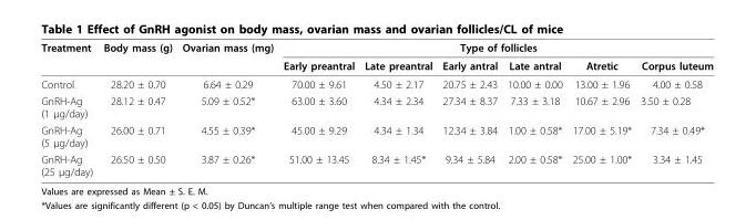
<table><thead><tr><td rowspan="2">Treatment</td><td rowspan="2">Body mass (g)</td><td rowspan="2">Ovarian mass (mg)</td><td colspan="6">Type of follicles</td></tr><tr><td>Early preantral</td><td>Late preantral</td><td>Early antral</td><td>Late antral</td><td>Atretic</td><td>Corpus luteum</td></tr></thead><tbody><tr><td>Control</td><td>28.20 ± 0.70</td><td>6.64 ± 0.29</td><td>70.00 ± 9.61</td><td>4.50 ± 2.17</td><td>20.75 ± 2.43</td><td>10.00 ± 0.00</td><td>13.00 ± 1.96</td><td>4.00 ± 0.58</td></tr><tr><td>GnRH-Ag (1 μg/day)</td><td>28.12 ± 0.47</td><td>5.09 ± 0.52*</td><td>63.00 ± 3.60</td><td>4.34 ± 2.34</td><td>27.34 ± 8.37</td><td>7.33 ± 3.18</td><td>10.67 ± 2.96</td><td>3.50 ± 0.28</td></tr><tr><td>GnRH-Ag (5 μg/day)</td><td>26.00 ± 0.71</td><td>4.55 ± 0.39*</td><td>45.00 ± 9.29</td><td>4.34 ± 1.34</td><td>12.34 ± 3.84</td><td>1.00 ± 0.58*</td><td>17.00 ± 5.19*</td><td>7.34 ± 0.49*</td></tr><tr><td>GnRH-Ag (25 μg/day)</td><td>26.50 ± 0.50</td><td>3.87 ± 0.26*</td><td>51.00 ± 13.45</td><td>8.34 ± 1.45*</td><td>9.34 ± 5.84</td><td>2.00 ± 0.58*</td><td>25.00 ± 1.00*</td><td>3.34 ± 1.45</td></tr></tbody></table>